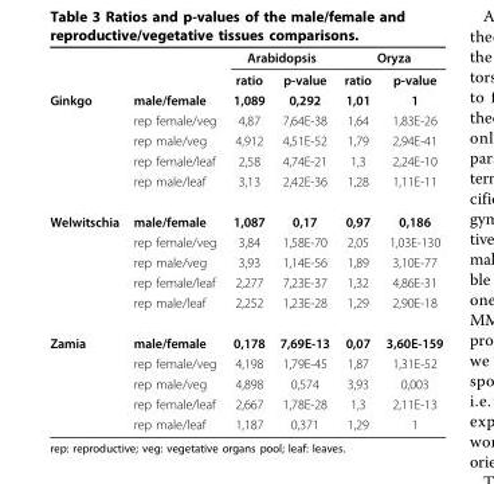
<table><thead><tr><td rowspan="2"></td><td rowspan="2"></td><td colspan="2">Arabidopsis</td><td colspan="2">Oryza</td></tr><tr><td>ratio</td><td>p-value</td><td>ratio</td><td>p-value</td></tr></thead><tbody><tr><td rowspan="5">Ginkgo</td><td>male/female</td><td>1,089</td><td>0,292</td><td>1,01</td><td>1</td></tr><tr><td>rep female/veg</td><td>4,87</td><td>7,64E-38</td><td>1,64</td><td>1,83E-26</td></tr><tr><td>rep male/veg</td><td>4,912</td><td>4,51E-52</td><td>1,79</td><td>2,94E-41</td></tr><tr><td>rep female/leaf</td><td>2,58</td><td>4,74E-21</td><td>1,3</td><td>2,24E-10</td></tr><tr><td>rep male/leaf</td><td>3,13</td><td>2,42E-36</td><td>1,28</td><td>1,11E-11</td></tr><tr><td rowspan="5">Welwitschia</td><td>male/female</td><td>1,087</td><td>0,17</td><td>0,97</td><td>0,186</td></tr><tr><td>rep female/veg</td><td>3,84</td><td>1,58E-70</td><td>2,05</td><td>1,03E-130</td></tr><tr><td>rep male/veg</td><td>3,93</td><td>1,14E-56</td><td>1,89</td><td>3,10E-77</td></tr><tr><td>rep female/leaf</td><td>2,277</td><td>7,23E-37</td><td>1,32</td><td>4,86E-31</td></tr><tr><td>rep male/leaf</td><td>2,252</td><td>1,23E-28</td><td>1,29</td><td>2,90E-18</td></tr><tr><td rowspan="5">Zamia</td><td>male/female</td><td>0,178</td><td>7,69E-13</td><td>0,07</td><td>3,60E-159</td></tr><tr><td>rep female/veg</td><td>4,198</td><td>1,79E-45</td><td>1,87</td><td>1,31E-52</td></tr><tr><td>rep male/veg</td><td>4,898</td><td>0,574</td><td>3,93</td><td>0,003</td></tr><tr><td>rep female/leaf</td><td>2,667</td><td>1,78E-28</td><td>1,3</td><td>2,11E-13</td></tr><tr><td>rep male/leaf</td><td>1,187</td><td>0,371</td><td>1,29</td><td>1</td></tr></tbody></table>